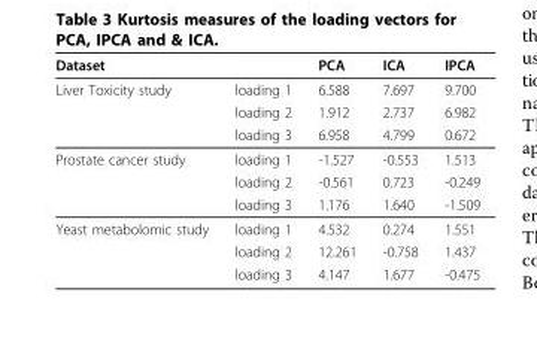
<table><thead><tr><td>Dataset</td><td></td><td>PCA</td><td>ICA</td><td>IPCA</td></tr></thead><tbody><tr><td rowspan="3">Liver Toxicity study</td><td>loading 1</td><td>6.588</td><td>7.697</td><td>9.700</td></tr><tr><td>loading 2</td><td>1.912</td><td>2.737</td><td>6.982</td></tr><tr><td>loading 3</td><td>6.958</td><td>4.799</td><td>0.672</td></tr><tr><td rowspan="3">Prostate cancer study</td><td>loading 1</td><td>-1.527</td><td>-0.553</td><td>1.513</td></tr><tr><td>loading 2</td><td>-0.561</td><td>0.723</td><td>-0.249</td></tr><tr><td>loading 3</td><td>1.176</td><td>1.640</td><td>-1.509</td></tr><tr><td rowspan="3">Yeast metabolomic study</td><td>loading 1</td><td>4.532</td><td>0.274</td><td>1.551</td></tr><tr><td>loading 2</td><td>12.261</td><td>-0.758</td><td>1.437</td></tr><tr><td>loading 3</td><td>4.147</td><td>1.677</td><td>-0.475</td></tr></tbody></table>